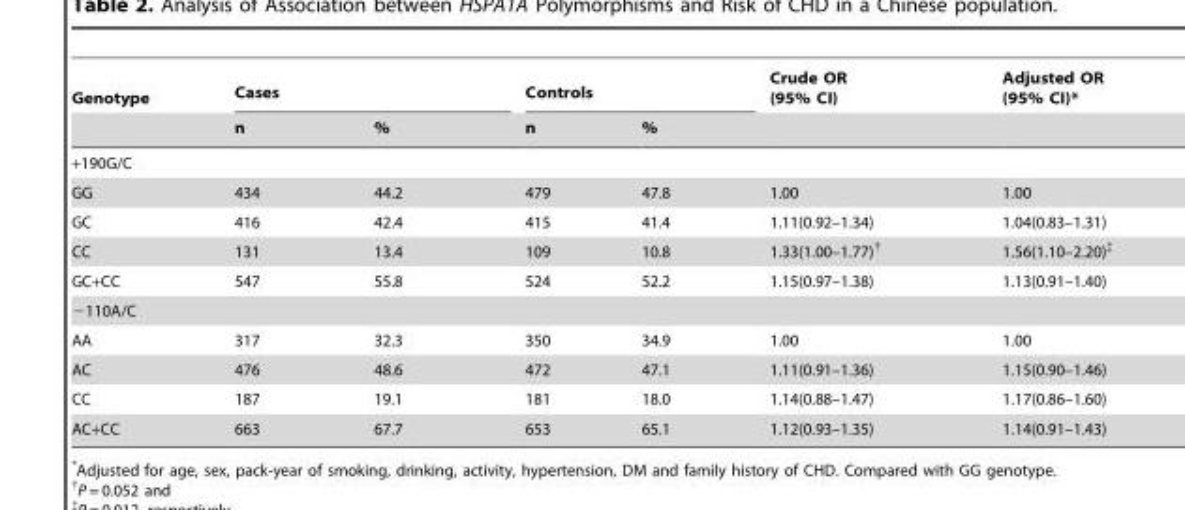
<table><thead><tr><td rowspan="2">Genotype</td><td colspan="2">Cases</td><td colspan="2">Controls</td><td rowspan="2">Crude OR (95% CI)</td><td rowspan="2">Adjusted OR (95% CI)*</td></tr><tr><td>n</td><td>%</td><td>n</td><td>%</td></tr></thead><tbody><tr><td colspan="7">+190G/C</td></tr><tr><td>GG</td><td>434</td><td>44.2</td><td>479</td><td>47.8</td><td>1.00</td><td>1.00</td></tr><tr><td>GC</td><td>416</td><td>42.4</td><td>415</td><td>41.4</td><td>1.11(0.92–1.34)</td><td>1.04(0.83–1.31)</td></tr><tr><td>CC</td><td>131</td><td>13.4</td><td>109</td><td>10.8</td><td>1.33(1.00–1.77)†</td><td>1.56(1.10–2.20)‡</td></tr><tr><td>GC+CC</td><td>547</td><td>55.8</td><td>524</td><td>52.2</td><td>1.15(0.97–1.38)</td><td>1.13(0.91–1.40)</td></tr><tr><td colspan="7">−110A/C</td></tr><tr><td>AA</td><td>317</td><td>32.3</td><td>350</td><td>34.9</td><td>1.00</td><td>1.00</td></tr><tr><td>AC</td><td>476</td><td>48.6</td><td>472</td><td>47.1</td><td>1.11(0.91–1.36)</td><td>1.15(0.90–1.46)</td></tr><tr><td>CC</td><td>187</td><td>19.1</td><td>181</td><td>18.0</td><td>1.14(0.88–1.47)</td><td>1.17(0.86–1.60)</td></tr><tr><td>AC+CC</td><td>663</td><td>67.7</td><td>653</td><td>65.1</td><td>1.12(0.93–1.35)</td><td>1.14(0.91–1.43)</td></tr></tbody></table>